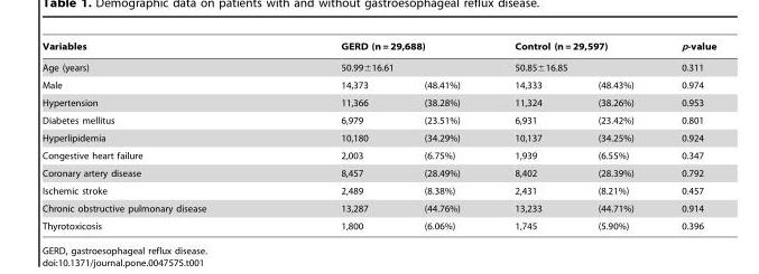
<table><thead><tr><td rowspan="3">Variables Age (years) Male</td><td rowspan="2" colspan="2">GERD (n = 29,688) 50.99±16.61</td><td rowspan="2" colspan="2">Control (n = 29,597) 50.85±16.85</td><td rowspan="3">p-value 0.311 0.974</td></tr><tr></tr><tr><td>14,373</td><td>(48.41%)</td><td>14,333</td><td>(48.43%)</td></tr></thead><tbody><tr><td>Hypertension</td><td>11,366</td><td>(38.28%)</td><td>11,324</td><td>(38.26%)</td><td>0.953</td></tr><tr><td>Diabetes mellitus</td><td>6,979</td><td>(23.51%)</td><td>6,931</td><td>(23.42%)</td><td>0.801</td></tr><tr><td>Hyperlipidemia</td><td>10,180</td><td>(34.29%)</td><td>10,137</td><td>(34.25%)</td><td>0.924</td></tr><tr><td>Congestive heart failure</td><td>2,003</td><td>(6.75%)</td><td>1,939</td><td>(6.55%)</td><td>0.347</td></tr><tr><td>Coronary artery disease</td><td>8,457</td><td>(28.49%)</td><td>8,402</td><td>(28.39%)</td><td>0.792</td></tr><tr><td>Ischemic stroke</td><td>2,489</td><td>(8.38%)</td><td>2,431</td><td>(8.21%)</td><td>0.457</td></tr><tr><td>Chronic obstructive pulmonary disease</td><td>13,287</td><td>(44.76%)</td><td>13,233</td><td>(44.71%)</td><td>0.914</td></tr><tr><td>Thyrotoxicosis</td><td>1,800</td><td>(6.06%)</td><td>1,745</td><td>(5.90%)</td><td>0.396</td></tr></tbody></table>